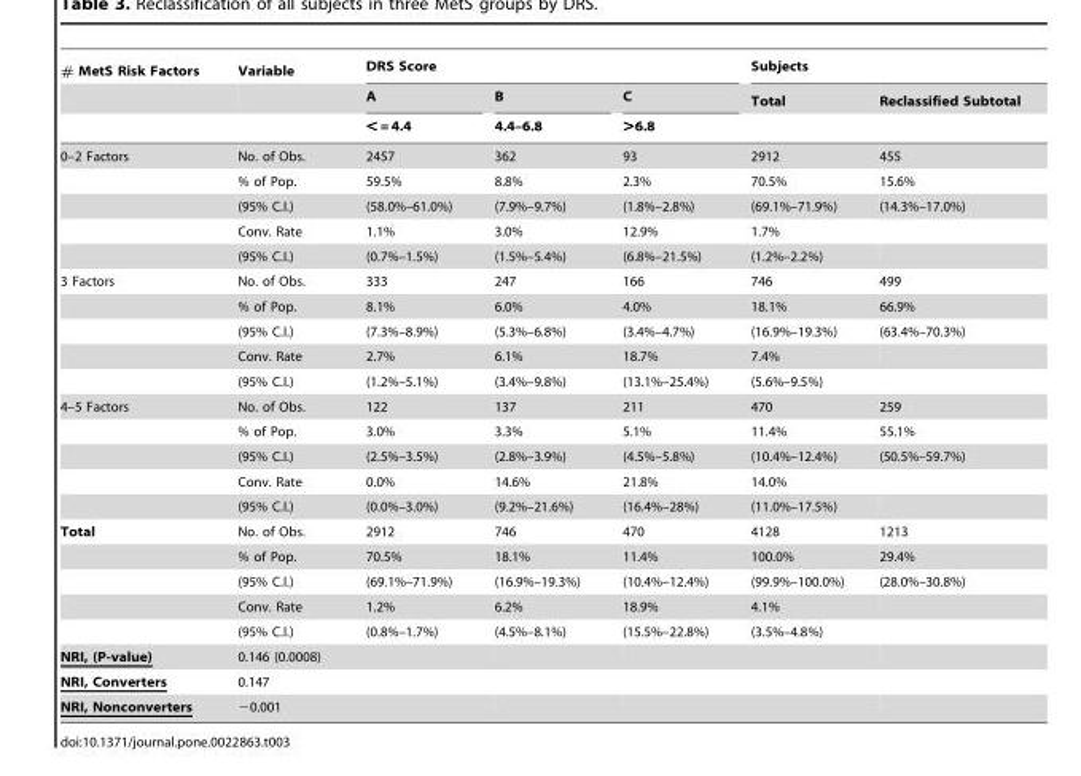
<table><thead><tr><td rowspan="3"># MetS Risk Factors</td><td rowspan="3">Variable</td><td colspan="3">DRS Score</td><td colspan="2">Subjects</td></tr><tr><td rowspan="2">A &lt; = 4.4</td><td rowspan="2">B 4.4–6.8</td><td rowspan="2">C &gt;6.8</td><td rowspan="2">Total</td><td rowspan="2">Reclassified Subtotal</td></tr><tr></tr></thead><tbody><tr><td rowspan="5">0–2 Factors</td><td>No. of Obs.</td><td>2457</td><td>362</td><td>93</td><td>2912</td><td>455</td></tr><tr><td>% of Pop.</td><td>59.5%</td><td>8.8%</td><td>2.3%</td><td>70.5%</td><td>15.6%</td></tr><tr><td>(95% C.I.)</td><td>(58.0%–61.0%)</td><td>(7.9%–9.7%)</td><td>(1.8%–2.8%)</td><td>(69.1%–71.9%)</td><td>(14.3%–17.0%)</td></tr><tr><td>Conv. Rate</td><td>1.1%</td><td>3.0%</td><td>12.9%</td><td>1.7%</td><td></td></tr><tr><td>(95% C.I.)</td><td>(0.7%–1.5%)</td><td>(1.5%–5.4%)</td><td>(6.8%–21.5%)</td><td>(1.2%–2.2%)</td><td></td></tr><tr><td rowspan="5">3 Factors</td><td>No. of Obs.</td><td>333</td><td>247</td><td>166</td><td>746</td><td>499</td></tr><tr><td>% of Pop.</td><td>8.1%</td><td>6.0%</td><td>4.0%</td><td>18.1%</td><td>66.9%</td></tr><tr><td>(95% C.I.)</td><td>(7.3%–8.9%)</td><td>(5.3%–6.8%)</td><td>(3.4%–4.7%)</td><td>(16.9%–19.3%)</td><td>(63.4%–70.3%)</td></tr><tr><td>Conv. Rate</td><td>2.7%</td><td>6.1%</td><td>18.7%</td><td>7.4%</td><td></td></tr><tr><td>(95% C.I.)</td><td>(1.2%–5.1%)</td><td>(3.4%–9.8%)</td><td>(13.1%–25.4%)</td><td>(5.6%–9.5%)</td><td></td></tr><tr><td rowspan="5">4–5 Factors</td><td>No. of Obs.</td><td>122</td><td>137</td><td>211</td><td>470</td><td>259</td></tr><tr><td>% of Pop.</td><td>3.0%</td><td>3.3%</td><td>5.1%</td><td>11.4%</td><td>55.1%</td></tr><tr><td>(95% C.I.)</td><td>(2.5%–3.5%)</td><td>(2.8%–3.9%)</td><td>(4.5%–5.8%)</td><td>(10.4%–12.4%)</td><td>(50.5%–59.7%)</td></tr><tr><td>Conv. Rate</td><td>0.0%</td><td>14.6%</td><td>21.8%</td><td>14.0%</td><td></td></tr><tr><td>(95% C.I.)</td><td>(0.0%–3.0%)</td><td>(9.2%–21.6%)</td><td>(16.4%–28%)</td><td>(11.0%–17.5%)</td><td></td></tr><tr><td rowspan="5">Total</td><td>No. of Obs.</td><td>2912</td><td>746</td><td>470</td><td>4128</td><td>1213</td></tr><tr><td>% of Pop.</td><td>70.5%</td><td>18.1%</td><td>11.4%</td><td>100.0%</td><td>29.4%</td></tr><tr><td>(95% C.I.)</td><td>(69.1%–71.9%)</td><td>(16.9%–19.3%)</td><td>(10.4%–12.4%)</td><td>(99.9%–100.0%)</td><td>(28.0%–30.8%)</td></tr><tr><td>Conv. Rate</td><td>1.2%</td><td>6.2%</td><td>18.9%</td><td>4.1%</td><td></td></tr><tr><td>(95% C.I.)</td><td>(0.8%–1.7%)</td><td>(4.5%–8.1%)</td><td>(15.5%–22.8%)</td><td>(3.5%–4.8%)</td><td></td></tr><tr><td>NRI, (P-value)</td><td>0.146 (0.0008)</td><td></td><td></td><td></td><td></td><td></td></tr><tr><td>NRI, Converters</td><td>0.147</td><td></td><td></td><td></td><td></td><td></td></tr><tr><td>NRI, Nonconverters</td><td>−0.001</td><td></td><td></td><td></td><td></td><td></td></tr></tbody></table>